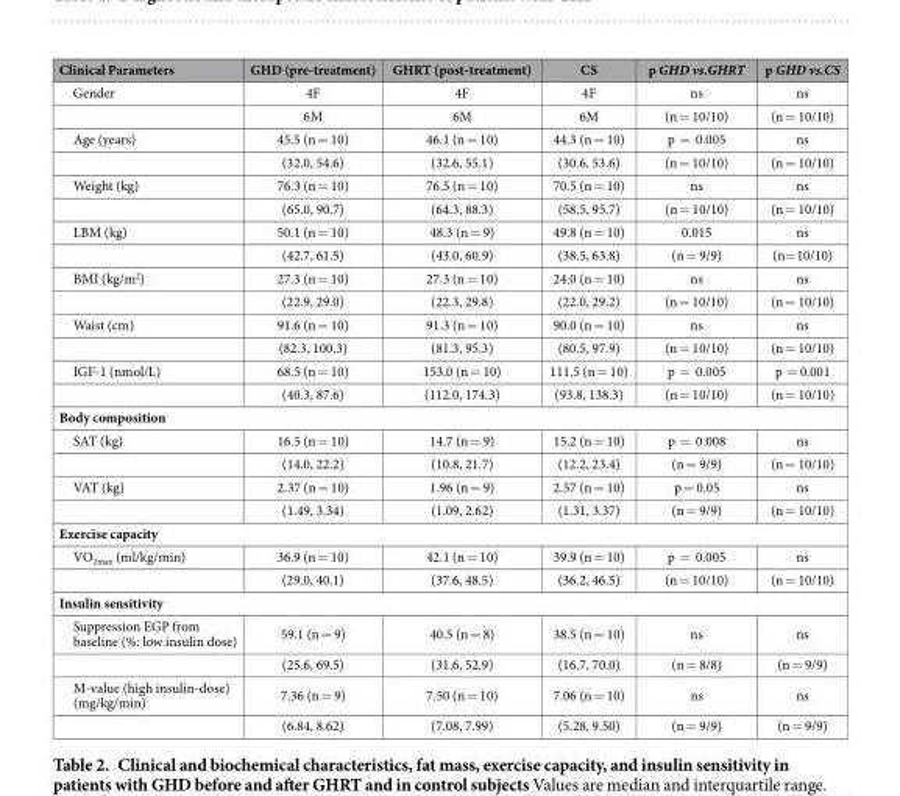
<table><thead><tr><td>Clinical Parameters</td><td>GHD (pre-treatment)</td><td>GHRT (post-treatment)</td><td>CS</td><td>p GHD vs.GHRT</td><td>p GHD vs.CS</td></tr></thead><tbody><tr><td rowspan="2">Gender</td><td>4F</td><td>4F</td><td>4F</td><td>ns</td><td>ns</td></tr><tr><td>6M</td><td>6M</td><td>6M</td><td>(n = 10/10)</td><td>(n = 10/10)</td></tr><tr><td rowspan="2">Age (years)</td><td>45.5 (n = 10)</td><td>46.1 (n = 10)</td><td>44.3 (n = 10)</td><td>p = 0.005</td><td>ns</td></tr><tr><td>(32.0, 54.6)</td><td>(32.6, 55.1)</td><td>(30.6, 53.6)</td><td>(n = 10/10)</td><td>(n = 10/10)</td></tr><tr><td rowspan="2">Weight (kg)</td><td>76.3 (n = 10)</td><td>76.5 (n = 10)</td><td>70.5 (n = 10)</td><td>ns</td><td>ns</td></tr><tr><td>(65.0, 90.7)</td><td>(64.3, 88.3)</td><td>(58.5, 95.7)</td><td>(n = 10/10)</td><td>(n = 10/10)</td></tr><tr><td rowspan="2">LBM (kg)</td><td>50.1 (n = 10)</td><td>48.3 (n = 9)</td><td>49.8 (n = 10)</td><td>0.015</td><td>ns</td></tr><tr><td>(42.7, 61.5)</td><td>(43.0, 60.9)</td><td>(38.5, 63.8)</td><td>(n = 9/9)</td><td>(n= 10/10)</td></tr><tr><td rowspan="2">BMI (kg/m<sup>2</sup>)</td><td>27.3 (n = 10)</td><td>27.3 (n = 10)</td><td>24.0 (n = 10)</td><td>ns</td><td>ns</td></tr><tr><td>(22.9, 29.0)</td><td>(22.3, 29.8)</td><td>(22.0, 29.2)</td><td>(n = 10/10)</td><td>(n = 10/10)</td></tr><tr><td rowspan="2">Waist (cm)</td><td>91.6 (n = 10)</td><td>91.3 (n = 10)</td><td>90.0 (n = 10)</td><td>ns</td><td>ns</td></tr><tr><td>(82.3, 100.3)</td><td>(81.3, 95.3)</td><td>(80.5, 97.9)</td><td>(n = 10/10)</td><td>(n = 10/10)</td></tr><tr><td rowspan="2">IGF-1 (nmol/L)</td><td>68.5 (n = 10)</td><td>153.0 (n = 10)</td><td>111.5 (n = 10)</td><td>p = 0.005</td><td>p = 0.001</td></tr><tr><td>(40.3, 87.6)</td><td>(112.0, 174.3)</td><td>(93.8, 138.3)</td><td>(n = 10/10)</td><td>(n = 10/10)</td></tr><tr><td colspan="6">Body composition</td></tr><tr><td rowspan="2">SAT (kg)</td><td>16.5 (n = 10)</td><td>14.7 (n = 9)</td><td>15.2 (n = 10)</td><td>p = 0.008</td><td>ns</td></tr><tr><td>(14.0, 22.2)</td><td>(10.8, 21.7)</td><td>(12.2, 23.4)</td><td>(n = 9/9)</td><td>(n = 10/10)</td></tr><tr><td rowspan="2">VAT (kg)</td><td>2.37 (n = 10)</td><td>1.96 (n = 9)</td><td>2.57 (n = 10)</td><td>p = 0.05</td><td>ns</td></tr><tr><td>(1.49, 3.34)</td><td>(1.09, 2.62)</td><td>(1.31, 3.37)</td><td>(n = 9/9)</td><td>(n = 10/10)</td></tr><tr><td colspan="6">Exercise capacity</td></tr><tr><td rowspan="2">VO<sub>2max</sub> (ml/kg/min)</td><td>36.9 (n = 10)</td><td>42.1 (n = 10)</td><td>39.9 (n = 10)</td><td>p = 0.005</td><td>ns</td></tr><tr><td>(29.0, 40.1)</td><td>(37.6, 48.5)</td><td>(36.2, 46.5)</td><td>(n = 10/10)</td><td>(n = 10/10)</td></tr><tr><td colspan="6">Insulin sensitivity</td></tr><tr><td rowspan="2">Suppression EGP from baseline (%: low insulin dose)</td><td>59.1 (n = 9)</td><td>40.5 (n = 8)</td><td>38.5 (n = 10)</td><td>ns</td><td>ns</td></tr><tr><td>(25.6, 69.5)</td><td>(31.6, 52.9)</td><td>(16.7, 70.0)</td><td>(n = 8/8)</td><td>(n = 9/9)</td></tr><tr><td rowspan="2">M-value (high insulin-dose) (mg/kg/min)</td><td>7.36 (n = 9)</td><td>7.50 (n = 10)</td><td>7.06 (n = 10)</td><td>ns</td><td>ns</td></tr><tr><td>(6.84, 8.62)</td><td>(7.08, 7.99)</td><td>(5.28, 9.50)</td><td>(n = 9/9)</td><td>(n = 9/9)</td></tr></tbody></table>